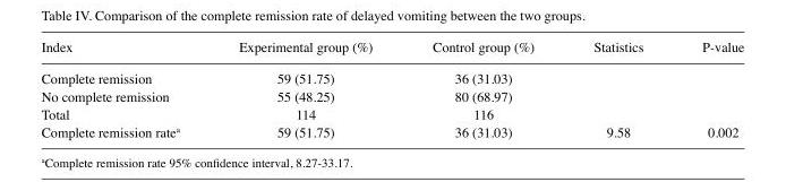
<table><thead><tr><td>Index</td><td>Experimental group (%)</td><td>Control group (%)</td><td>Statistics</td><td>P-value</td></tr></thead><tbody><tr><td>Complete remission</td><td>59 (51.75)</td><td>36 (31.03)</td><td></td><td></td></tr><tr><td>No complete remission</td><td>55 (48.25)</td><td>80 (68.97)</td><td></td><td></td></tr><tr><td>Total</td><td>114</td><td>116</td><td></td><td></td></tr><tr><td>Complete remission rate<sup>a</sup></td><td>59 (51.75)</td><td>36 (31.03)</td><td>9.58</td><td>0.002</td></tr></tbody></table>